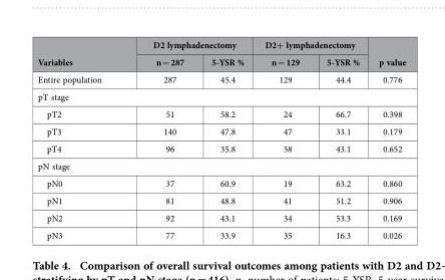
<table><thead><tr><td rowspan="2">Variables</td><td colspan="2">D2 lymphadenectomy</td><td colspan="2">D2+ lymphadenectomy</td><td rowspan="2">p value</td></tr><tr><td>n = 287</td><td>5-YSR %</td><td>n = 129</td><td>5-YSR %</td></tr></thead><tbody><tr><td>Entire population</td><td>287</td><td>45.4</td><td>129</td><td>44.4</td><td>0.776</td></tr><tr><td colspan="6">pT stage</td></tr><tr><td>pT2</td><td>51</td><td>58.2</td><td>24</td><td>66.7</td><td>0.398</td></tr><tr><td>pT3</td><td>140</td><td>47.8</td><td>47</td><td>33.1</td><td>0.179</td></tr><tr><td>pT4</td><td>96</td><td>35.8</td><td>58</td><td>43.1</td><td>0.652</td></tr><tr><td colspan="6">pN stage</td></tr><tr><td>pN0</td><td>37</td><td>60.9</td><td>19</td><td>63.2</td><td>0.860</td></tr><tr><td>pN1</td><td>81</td><td>48.8</td><td>41</td><td>51.2</td><td>0.906</td></tr><tr><td>pN2</td><td>92</td><td>43.1</td><td>34</td><td>53.3</td><td>0.169</td></tr><tr><td>pN3</td><td>77</td><td>33.9</td><td>35</td><td>16.3</td><td>0.026</td></tr></tbody></table>